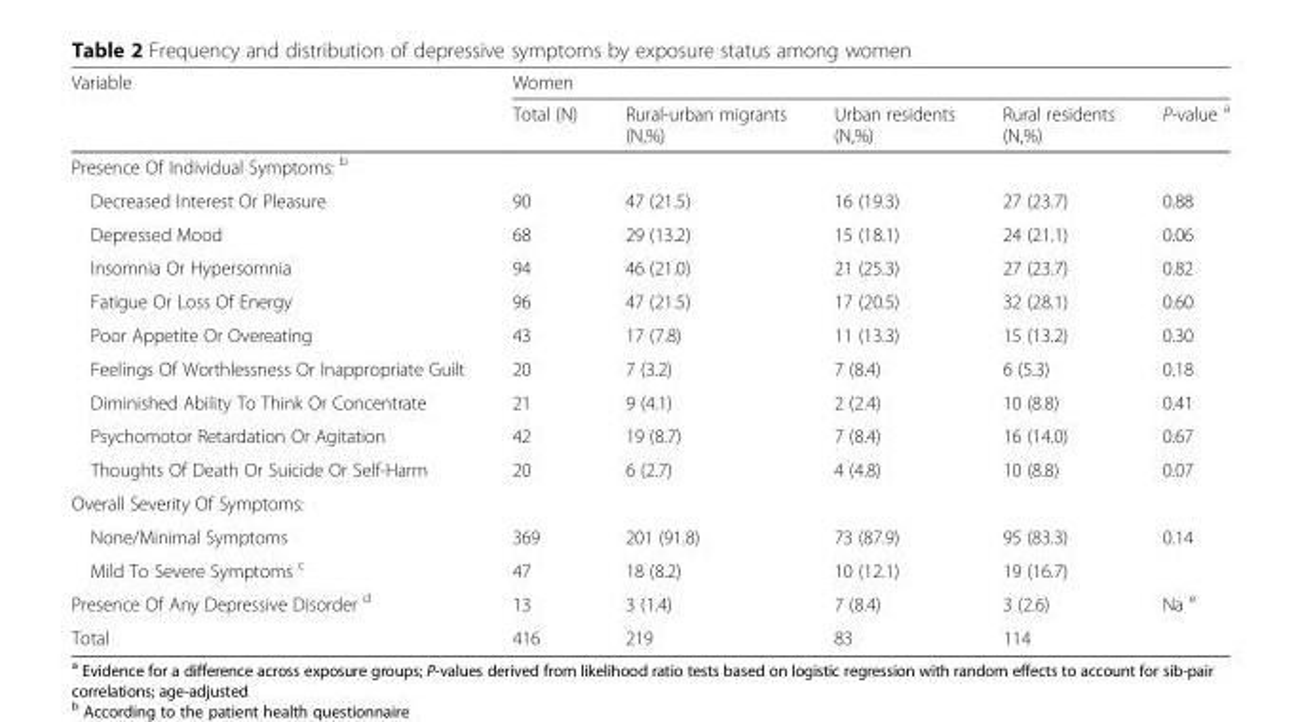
<table><thead><tr><td rowspan="2">Variable</td><td colspan="5">Women</td></tr><tr><td>Total (N)</td><td>Rural-urban migrants (N,%)</td><td>Urban residents (N,%)</td><td>Rural residents (N,%)</td><td>P-value <sup>a</sup></td></tr></thead><tbody><tr><td colspan="6">Presence Of Individual Symptoms: <sup>b</sup></td></tr><tr><td>Decreased Interest Or Pleasure</td><td>90</td><td>47 (21.5)</td><td>16 (19.3)</td><td>27 (23.7)</td><td>0.88</td></tr><tr><td>Depressed Mood</td><td>68</td><td>29 (13.2)</td><td>15 (18.1)</td><td>24 (21.1)</td><td>0.06</td></tr><tr><td>Insomnia Or Hypersomnia</td><td>94</td><td>46 (21.0)</td><td>21 (25.3)</td><td>27 (23.7)</td><td>0.82</td></tr><tr><td>Fatigue Or Loss Of Energy</td><td>96</td><td>47 (21.5)</td><td>17 (20.5)</td><td>32 (28.1)</td><td>0.60</td></tr><tr><td>Poor Appetite Or Overeating</td><td>43</td><td>17 (7.8)</td><td>11 (13.3)</td><td>15 (13.2)</td><td>0.30</td></tr><tr><td>Feelings Of Worthlessness Or Inappropriate Guilt</td><td>20</td><td>7 (3.2)</td><td>7 (8.4)</td><td>6 (5.3)</td><td>0.18</td></tr><tr><td>Diminished Ability To Think Or Concentrate</td><td>21</td><td>9 (4.1)</td><td>2 (2.4)</td><td>10 (8.8)</td><td>0.41</td></tr><tr><td>Psychomotor Retardation Or Agitation</td><td>42</td><td>19 (8.7)</td><td>7 (8.4)</td><td>16 (14.0)</td><td>0.67</td></tr><tr><td>Thoughts Of Death Or Suicide Or Self-Harm</td><td>20</td><td>6 (2.7)</td><td>4 (4.8)</td><td>10 (8.8)</td><td>0.07</td></tr><tr><td colspan="6">Overall Severity Of Symptoms:</td></tr><tr><td>None/Minimal Symptoms</td><td>369</td><td>201 (91.8)</td><td>73 (87.9)</td><td>95 (83.3)</td><td rowspan="2">0.14</td></tr><tr><td>Mild To Severe Symptoms <sup>c</sup></td><td>47</td><td>18 (8.2)</td><td>10 (12.1)</td><td>19 (16.7)</td></tr><tr><td>Presence Of Any Depressive Disorder <sup>d</sup></td><td>13</td><td>3 (1.4)</td><td>7 (8.4)</td><td>3 (2.6)</td><td>Na <sup>e</sup></td></tr><tr><td>Total</td><td>416</td><td>219</td><td>83</td><td>114</td><td></td></tr></tbody></table>